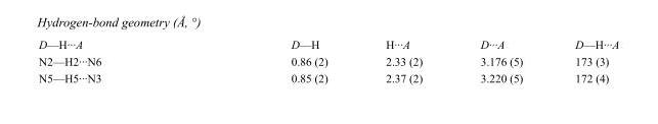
<table><tbody><tr><td>D—H···A</td><td>D—H</td><td>H···A</td><td>D···A</td><td>D—H···A</td></tr><tr><td>N2—H2···N6</td><td>0.86 (2)</td><td>2.33 (2)</td><td>3.176 (5)</td><td>173 (3)</td></tr><tr><td>N5—H5···N3</td><td>0.85 (2)</td><td>2.37 (2)</td><td>3.220 (5)</td><td>172 (4)</td></tr></tbody></table>